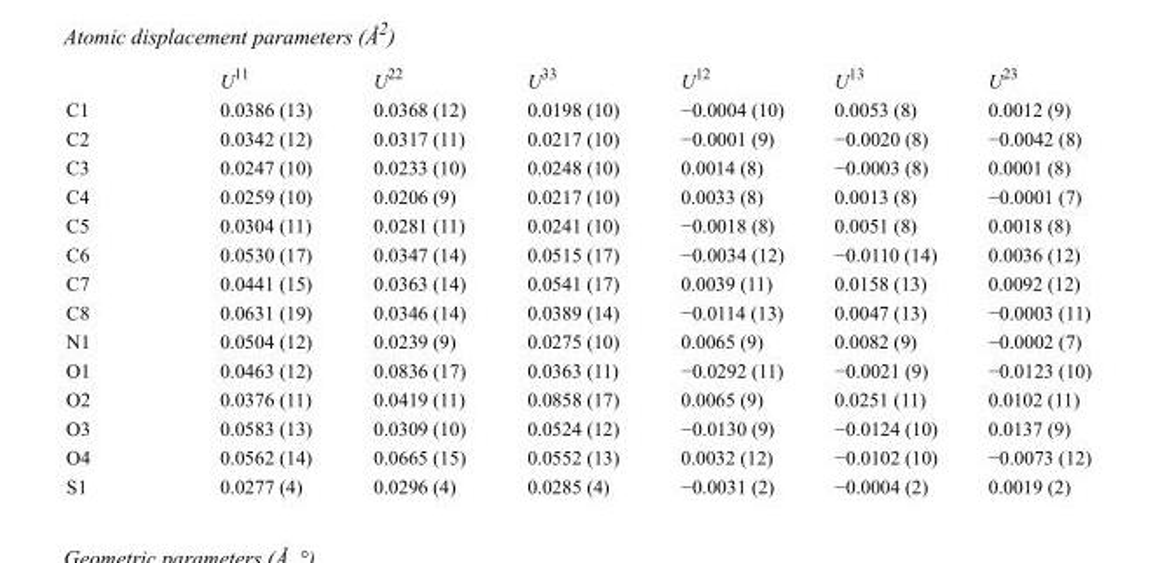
<table><thead><tr><td></td><td>U<sup>11</sup></td><td>U<sup>22</sup></td><td>U<sup>33</sup></td><td>U<sup>12</sup></td><td>U<sup>13</sup></td><td>U<sup>23</sup></td></tr></thead><tbody><tr><td>C1</td><td>0.0386 (13)</td><td>0.0368 (12)</td><td>0.0198 (10)</td><td>−0.0004 (10)</td><td>0.0053 (8)</td><td>0.0012 (9)</td></tr><tr><td>C2</td><td>0.0342 (12)</td><td>0.0317 (11)</td><td>0.0217 (10)</td><td>−0.0001 (9)</td><td>−0.0020 (8)</td><td>−0.0042 (8)</td></tr><tr><td>C3</td><td>0.0247 (10)</td><td>0.0233 (10)</td><td>0.0248 (10)</td><td>0.0014 (8)</td><td>−0.0003 (8)</td><td>0.0001 (8)</td></tr><tr><td>C4</td><td>0.0259 (10)</td><td>0.0206 (9)</td><td>0.0217 (10)</td><td>0.0033 (8)</td><td>0.0013 (8)</td><td>−0.0001 (7)</td></tr><tr><td>C5</td><td>0.0304 (11)</td><td>0.0281 (11)</td><td>0.0241 (10)</td><td>−0.0018 (8)</td><td>0.0051 (8)</td><td>0.0018 (8)</td></tr><tr><td>C6</td><td>0.0530 (17)</td><td>0.0347 (14)</td><td>0.0515 (17)</td><td>−0.0034 (12)</td><td>−0.0110 (14)</td><td>0.0036 (12)</td></tr><tr><td>C7</td><td>0.0441 (15)</td><td>0.0363 (14)</td><td>0.0541 (17)</td><td>0.0039 (11)</td><td>0.0158 (13)</td><td>0.0092 (12)</td></tr><tr><td>C8</td><td>0.0631 (19)</td><td>0.0346 (14)</td><td>0.0389 (14)</td><td>−0.0114 (13)</td><td>0.0047 (13)</td><td>−0.0003 (11)</td></tr><tr><td>N1</td><td>0.0504 (12)</td><td>0.0239 (9)</td><td>0.0275 (10)</td><td>0.0065 (9)</td><td>0.0082 (9)</td><td>−0.0002 (7)</td></tr><tr><td>O1</td><td>0.0463 (12)</td><td>0.0836 (17)</td><td>0.0363 (11)</td><td>−0.0292 (11)</td><td>−0.0021 (9)</td><td>−0.0123 (10)</td></tr><tr><td>O2</td><td>0.0376 (11)</td><td>0.0419 (11)</td><td>0.0858 (17)</td><td>0.0065 (9)</td><td>0.0251 (11)</td><td>0.0102 (11)</td></tr><tr><td>O3</td><td>0.0583 (13)</td><td>0.0309 (10)</td><td>0.0524 (12)</td><td>−0.0130 (9)</td><td>−0.0124 (10)</td><td>0.0137 (9)</td></tr><tr><td>O4</td><td>0.0562 (14)</td><td>0.0665 (15)</td><td>0.0552 (13)</td><td>0.0032 (12)</td><td>−0.0102 (10)</td><td>−0.0073 (12)</td></tr><tr><td>S1</td><td>0.0277 (4)</td><td>0.0296 (4)</td><td>0.0285 (4)</td><td>−0.0031 (2)</td><td>−0.0004 (2)</td><td>0.0019 (2)</td></tr></tbody></table>